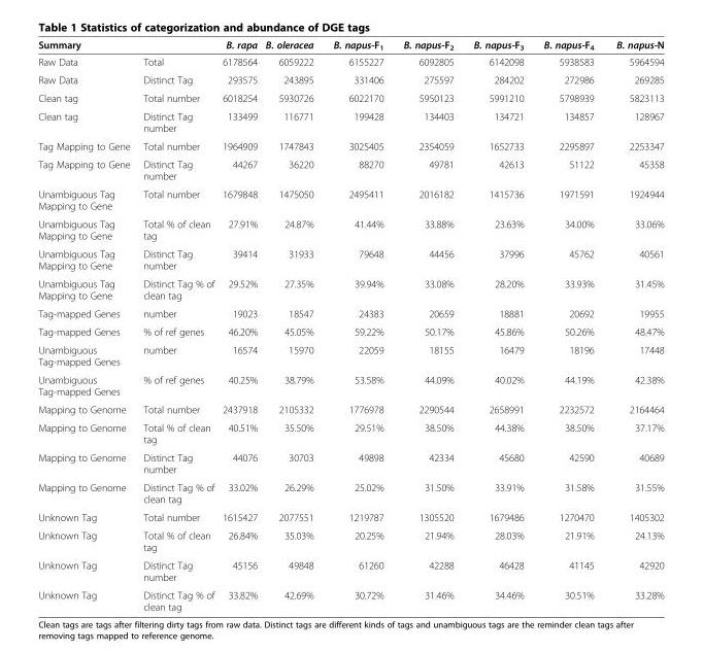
<table><thead><tr><td>Summary</td><td></td><td>B. rapa</td><td>B. oleracea</td><td>B. napus-F<sub>1</sub></td><td>B. napus-F<sub>2</sub></td><td>B. napus-F<sub>3</sub></td><td>B. napus-F<sub>4</sub></td><td>B. napus-N</td></tr></thead><tbody><tr><td>Raw Data</td><td>Total</td><td>6178564</td><td>6059222</td><td>6155227</td><td>6092805</td><td>6142098</td><td>5938583</td><td>5964594</td></tr><tr><td>Raw Data</td><td>Distinct Tag</td><td>293575</td><td>243895</td><td>331406</td><td>275597</td><td>284202</td><td>272986</td><td>269285</td></tr><tr><td>Clean tag</td><td>Total number</td><td>6018254</td><td>5930726</td><td>6022170</td><td>5950123</td><td>5991210</td><td>5798939</td><td>5823113</td></tr><tr><td>Clean tag</td><td>Distinct Tag number</td><td>133499</td><td>116771</td><td>199428</td><td>134403</td><td>134721</td><td>134857</td><td>128967</td></tr><tr><td>Tag Mapping to Gene</td><td>Total number</td><td>1964909</td><td>1747843</td><td>3025405</td><td>2354059</td><td>1652733</td><td>2295897</td><td>2253347</td></tr><tr><td>Tag Mapping to Gene</td><td>Distinct Tag number</td><td>44267</td><td>36220</td><td>88270</td><td>49781</td><td>42613</td><td>51122</td><td>45358</td></tr><tr><td>Unambiguous Tag Mapping to Gene</td><td>Total number</td><td>1679848</td><td>1475050</td><td>2495411</td><td>2016182</td><td>1415736</td><td>1971591</td><td>1924944</td></tr><tr><td>Unambiguous Tag Mapping to Gene</td><td>Total % of clean tag</td><td>27.91%</td><td>24.87%</td><td>41.44%</td><td>33.88%</td><td>23.63%</td><td>34.00%</td><td>33.06%</td></tr><tr><td>Unambiguous Tag Mapping to Gene</td><td>Distinct Tag number</td><td>39414</td><td>31933</td><td>79648</td><td>44456</td><td>37996</td><td>45762</td><td>40561</td></tr><tr><td>Unambiguous Tag Mapping to Gene</td><td>Distinct Tag % of clean tag</td><td>29.52%</td><td>27.35%</td><td>39.94%</td><td>33.08%</td><td>28.20%</td><td>33.93%</td><td>31.45%</td></tr><tr><td>Tag-mapped Genes</td><td>number</td><td>19023</td><td>18547</td><td>24383</td><td>20659</td><td>18881</td><td>20692</td><td>19955</td></tr><tr><td>Tag-mapped Genes</td><td>% of ref genes</td><td>46.20%</td><td>45.05%</td><td>59.22%</td><td>50.17%</td><td>45.86%</td><td>50.26%</td><td>48.47%</td></tr><tr><td>Unambiguous Tag-mapped Genes</td><td>number</td><td>16574</td><td>15970</td><td>22059</td><td>18155</td><td>16479</td><td>18196</td><td>17448</td></tr><tr><td>Unambiguous Tag-mapped Genes</td><td>% of ref genes</td><td>40.25%</td><td>38.79%</td><td>53.58%</td><td>44.09%</td><td>40.02%</td><td>44.19%</td><td>42.38%</td></tr><tr><td>Mapping to Genome</td><td>Total number</td><td>2437918</td><td>2105332</td><td>1776978</td><td>2290544</td><td>2658991</td><td>2232572</td><td>2164464</td></tr><tr><td>Mapping to Genome</td><td>Total % of clean tag</td><td>40.51%</td><td>35.50%</td><td>29.51%</td><td>38.50%</td><td>44.38%</td><td>38.50%</td><td>37.17%</td></tr><tr><td>Mapping to Genome</td><td>Distinct Tag number</td><td>44076</td><td>30703</td><td>49898</td><td>42334</td><td>45680</td><td>42590</td><td>40689</td></tr><tr><td>Mapping to Genome</td><td>Distinct Tag % of clean tag</td><td>33.02%</td><td>26.29%</td><td>25.02%</td><td>31.50%</td><td>33.91%</td><td>31.58%</td><td>31.55%</td></tr><tr><td>Unknown Tag</td><td>Total number</td><td>1615427</td><td>2077551</td><td>1219787</td><td>1305520</td><td>1679486</td><td>1270470</td><td>1405302</td></tr><tr><td>Unknown Tag</td><td>Total % of clean tag</td><td>26.84%</td><td>35.03%</td><td>20.25%</td><td>21.94%</td><td>28.03%</td><td>21.91%</td><td>24.13%</td></tr><tr><td>Unknown Tag</td><td>Distinct Tag number</td><td>45156</td><td>49848</td><td>61260</td><td>42288</td><td>46428</td><td>41145</td><td>42920</td></tr><tr><td>Unknown Tag</td><td>Distinct Tag % of clean tag</td><td>33.82%</td><td>42.69%</td><td>30.72%</td><td>31.46%</td><td>34.46%</td><td>30.51%</td><td>33.28%</td></tr></tbody></table>